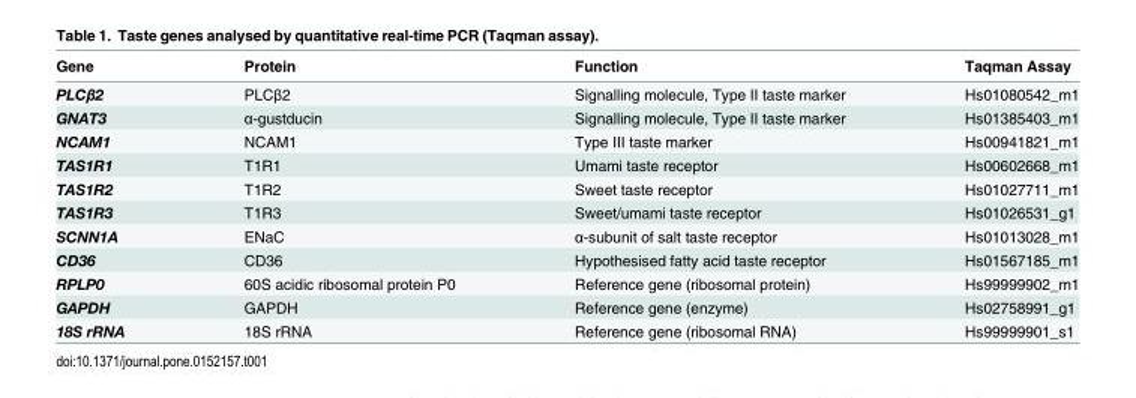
<table><thead><tr><td>Gene</td><td>Protein</td><td>Function</td><td>Taqman Assay</td></tr></thead><tbody><tr><td>PLCβ2</td><td>PLCβ2</td><td>Signalling molecule, Type II taste marker</td><td>Hs01080542_m1</td></tr><tr><td>GNAT3</td><td>α-gustducin</td><td>Signalling molecule, Type II taste marker</td><td>Hs01385403_m1</td></tr><tr><td>NCAM1</td><td>NCAM1</td><td>Type III taste marker</td><td>Hs00941821_m1</td></tr><tr><td>TAS1R1</td><td>T1R1</td><td>Umami taste receptor</td><td>Hs00602668_m1</td></tr><tr><td>TAS1R2</td><td>T1R2</td><td>Sweet taste receptor</td><td>Hs01027711_m1</td></tr><tr><td>TAS1R3</td><td>T1R3</td><td>Sweet/umami taste receptor</td><td>Hs01026531_g1</td></tr><tr><td>SCNN1A</td><td>ENaC</td><td>α-subunit of salt taste receptor</td><td>Hs01013028_m1</td></tr><tr><td>CD36</td><td>CD36</td><td>Hypothesised fatty acid taste receptor</td><td>Hs01567185_m1</td></tr><tr><td>RPLP0</td><td>60S acidic ribosomal protein P0</td><td>Reference gene (ribosomal protein)</td><td>Hs99999902_m1</td></tr><tr><td>GAPDH</td><td>GAPDH</td><td>Reference gene (enzyme)</td><td>Hs02758991_g1</td></tr><tr><td>18S rRNA</td><td>18S rRNA</td><td>Reference gene (ribosomal RNA)</td><td>Hs99999901_s1</td></tr></tbody></table>